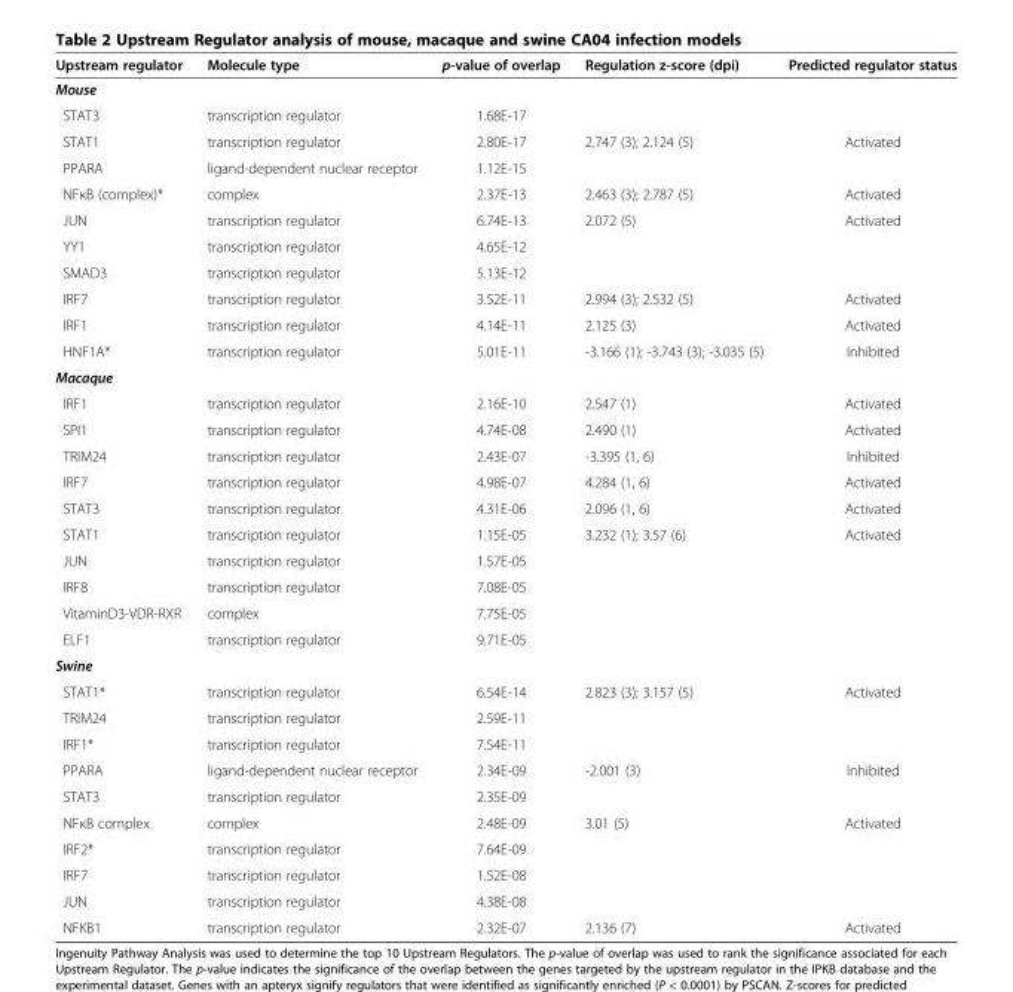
<table><thead><tr><td>Upstream regulator</td><td>Molecule type</td><td>p-value of overlap</td><td>Regulation z-score (dpi)</td><td>Predicted regulator status</td></tr></thead><tbody><tr><td colspan="5">Mouse</td></tr><tr><td>STAT3</td><td>transcription regulator</td><td>1.68E-17</td><td></td><td></td></tr><tr><td>STAT1</td><td>transcription regulator</td><td>2.80E-17</td><td>2.747 (3); 2.124 (5)</td><td>Activated</td></tr><tr><td>PPARA</td><td>ligand-dependent nuclear receptor</td><td>1.12E-15</td><td></td><td></td></tr><tr><td>NFκB (complex)*</td><td>complex</td><td>2.37E-13</td><td>2.463 (3); 2.787 (5)</td><td>Activated</td></tr><tr><td>JUN</td><td>transcription regulator</td><td>6.74E-13</td><td>2.072 (5)</td><td>Activated</td></tr><tr><td>YY1</td><td>transcription regulator</td><td>4.65E-12</td><td></td><td></td></tr><tr><td>SMAD3</td><td>transcription regulator</td><td>5.13E-12</td><td></td><td></td></tr><tr><td>IRF7</td><td>transcription regulator</td><td>3.52E-11</td><td>2.994 (3); 2.532 (5)</td><td>Activated</td></tr><tr><td>IRF1</td><td>transcription regulator</td><td>4.14E-11</td><td>2.125 (3)</td><td>Activated</td></tr><tr><td>HNF1A*</td><td>transcription regulator</td><td>5.01E-11</td><td>-3.166 (1); -3.743 (3); -3.035 (5)</td><td>Inhibited</td></tr><tr><td colspan="5">Macaque</td></tr><tr><td>IRF1</td><td>transcription regulator</td><td>2.16E-10</td><td>2.547 (1)</td><td>Activated</td></tr><tr><td>SPI1</td><td>transcription regulator</td><td>4.74E-08</td><td>2.490 (1)</td><td>Activated</td></tr><tr><td>TRIM24</td><td>transcription regulator</td><td>2.43E-07</td><td>-3.395 (1, 6)</td><td>Inhibited</td></tr><tr><td>IRF7</td><td>transcription regulator</td><td>4.98E-07</td><td>4.284 (1, 6)</td><td>Activated</td></tr><tr><td>STAT3</td><td>transcription regulator</td><td>4.31E-06</td><td>2.096 (1, 6)</td><td>Activated</td></tr><tr><td>STAT1</td><td>transcription regulator</td><td>1.15E-05</td><td>3.232 (1); 3.57 (6)</td><td>Activated</td></tr><tr><td>JUN</td><td>transcription regulator</td><td>1.57E-05</td><td></td><td></td></tr><tr><td>IRF8</td><td>transcription regulator</td><td>7.08E-05</td><td></td><td></td></tr><tr><td>VitaminD3-VDR-RXR</td><td>complex</td><td>7.75E-05</td><td></td><td></td></tr><tr><td>ELF1</td><td>transcription regulator</td><td>9.71E-05</td><td></td><td></td></tr><tr><td colspan="5">Swine</td></tr><tr><td>STAT1*</td><td>transcription regulator</td><td>6.54E-14</td><td>2.823 (3); 3.157 (5)</td><td>Activated</td></tr><tr><td>TRIM24</td><td>transcription regulator</td><td>2.59E-11</td><td></td><td></td></tr><tr><td>IRF1*</td><td>transcription regulator</td><td>7.54E-11</td><td></td><td></td></tr><tr><td>PPARA</td><td>ligand-dependent nuclear receptor</td><td>2.34E-09</td><td>-2.001 (3)</td><td>Inhibited</td></tr><tr><td>STAT3</td><td>transcription regulator</td><td>2.35E-09</td><td></td><td></td></tr><tr><td>NFκB complex</td><td>complex</td><td>2.48E-09</td><td>3.01 (5)</td><td>Activated</td></tr><tr><td>IRF2*</td><td>transcription regulator</td><td>7.64E-09</td><td></td><td></td></tr><tr><td>IRF7</td><td>transcription regulator</td><td>1.52E-08</td><td></td><td></td></tr><tr><td>JUN</td><td>transcription regulator</td><td>4.38E-08</td><td></td><td></td></tr><tr><td>NFKB1</td><td>transcription regulator</td><td>2.32E-07</td><td>2.136 (7)</td><td>Activated</td></tr></tbody></table>